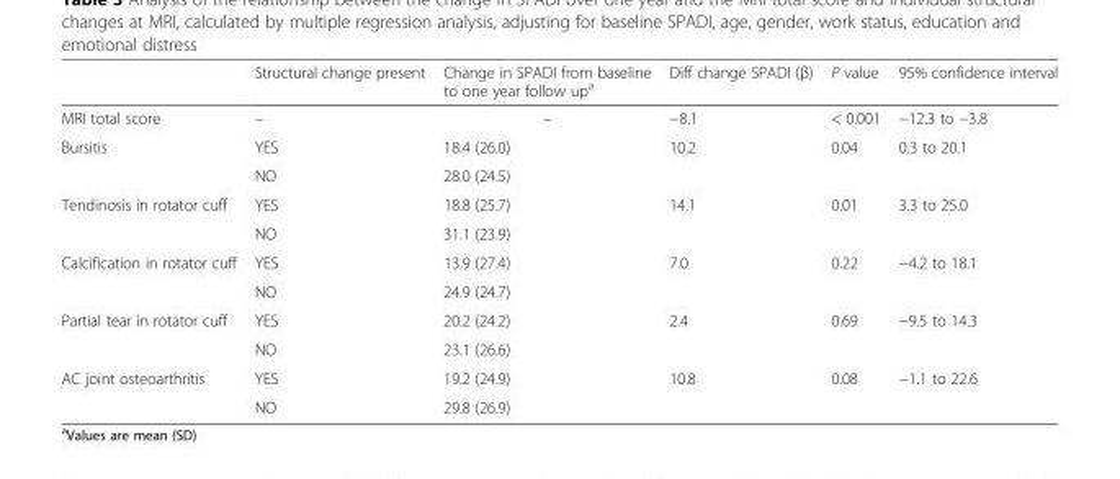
<table><thead><tr><td></td><td>Structural change present</td><td>Change in SPADI from baseline to one year follow up<sup>a</sup></td><td>Diff change SPADI (β)</td><td>P value</td><td>95% confidence interval</td></tr></thead><tbody><tr><td>MRI total score</td><td>–</td><td>–</td><td>−8.1</td><td>&lt; 0.001</td><td>−12.3 to −3.8</td></tr><tr><td rowspan="2">Bursitis</td><td>YES</td><td>18.4 (26.0)</td><td rowspan="2">10.2</td><td rowspan="2">0.04</td><td rowspan="2">0.3 to 20.1</td></tr><tr><td>NO</td><td>28.0 (24.5)</td></tr><tr><td rowspan="2">Tendinosis in rotator cuff</td><td>YES</td><td>18.8 (25.7)</td><td rowspan="2">14.1</td><td rowspan="2">0.01</td><td rowspan="2">3.3 to 25.0</td></tr><tr><td>NO</td><td>31.1 (23.9)</td></tr><tr><td rowspan="2">Calcification in rotator cuff</td><td>YES</td><td>13.9 (27.4)</td><td rowspan="2">7.0</td><td rowspan="2">0.22</td><td rowspan="2">−4.2 to 18.1</td></tr><tr><td>NO</td><td>24.9 (24.7)</td></tr><tr><td rowspan="2">Partial tear in rotator cuff</td><td>YES</td><td>20.2 (24.2)</td><td rowspan="2">2.4</td><td rowspan="2">0.69</td><td rowspan="2">−9.5 to 14.3</td></tr><tr><td>NO</td><td>23.1 (26.6)</td></tr><tr><td rowspan="2">AC joint osteoarthritis</td><td>YES</td><td>19.2 (24.9)</td><td rowspan="2">10.8</td><td rowspan="2">0.08</td><td rowspan="2">−1.1 to 22.6</td></tr><tr><td>NO</td><td>29.8 (26.9)</td></tr></tbody></table>